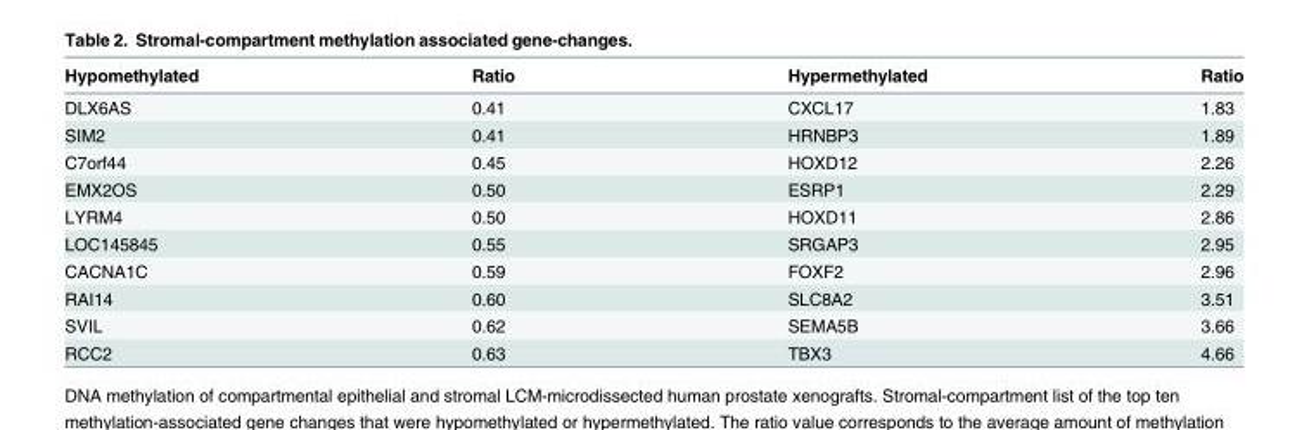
<table><thead><tr><td>Hypomethylated</td><td>Ratio</td><td>Hypermethylated</td><td>Ratio</td></tr></thead><tbody><tr><td>DLX6AS</td><td>0.41</td><td>CXCL17</td><td>1.83</td></tr><tr><td>SIM2</td><td>0.41</td><td>HRNBP3</td><td>1.89</td></tr><tr><td>C7orf44</td><td>0.45</td><td>HOXD12</td><td>2.26</td></tr><tr><td>EMX2OS</td><td>0.50</td><td>ESRP1</td><td>2.29</td></tr><tr><td>LYRM4</td><td>0.50</td><td>HOXD11</td><td>2.86</td></tr><tr><td>LOC145845</td><td>0.55</td><td>SRGAP3</td><td>2.95</td></tr><tr><td>CACNA1C</td><td>0.59</td><td>FOXF2</td><td>2.96</td></tr><tr><td>RAI14</td><td>0.60</td><td>SLC8A2</td><td>3.51</td></tr><tr><td>SVIL</td><td>0.62</td><td>SEMA5B</td><td>3.66</td></tr><tr><td>RCC2</td><td>0.63</td><td>TBX3</td><td>4.66</td></tr></tbody></table>